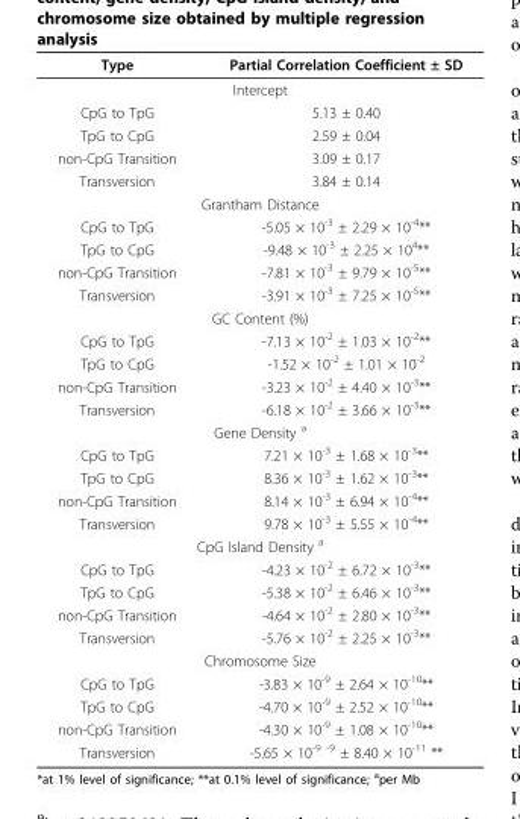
<table><thead><tr><td>Type</td><td>Partial Correlation Coefficient ± SD</td></tr></thead><tbody><tr><td colspan="2">Intercept</td></tr><tr><td>CpG to TpG</td><td>5.13 ± 0.40</td></tr><tr><td>TpG to CpG</td><td>2.59 ± 0.04</td></tr><tr><td>non-CpG Transition</td><td>3.09 ± 0.17</td></tr><tr><td>Transversion</td><td>3.84 ± 0.14</td></tr><tr><td colspan="2">Grantham Distance</td></tr><tr><td>CpG to TpG</td><td>-5.05 × 10<sup>-3</sup> ± 2.29 × 10<sup>-4</sup>**</td></tr><tr><td>TpG to CpG</td><td>-9.48 × 10<sup>-3</sup> ± 2.25 × 10<sup>4</sup>**</td></tr><tr><td>non-CpG Transition</td><td>-7.81 × 10<sup>-3</sup> ± 9.79 × 10<sup>-5</sup>**</td></tr><tr><td>Transversion</td><td>-3.91 × 10<sup>-3</sup> ± 7.25 × 10<sup>-5</sup>**</td></tr><tr><td colspan="2">GC Content (%)</td></tr><tr><td>CpG to TpG</td><td>-7.13 × 10<sup>-2</sup> ± 1.03 × 10<sup>-2</sup>**</td></tr><tr><td>TpG to CpG</td><td>-1.52 × 10<sup>-2</sup> ± 1.01 × 10<sup>-2</sup></td></tr><tr><td>non-CpG Transition</td><td>-3.23 × 10<sup>-2</sup> ± 4.40 × 10<sup>-3</sup>**</td></tr><tr><td>Transversion</td><td>-6.18 × 10<sup>-2</sup> ± 3.66 × 10<sup>-3</sup>**</td></tr><tr><td colspan="2">Gene Density <sup>a</sup></td></tr><tr><td>CpG to TpG</td><td>7.21 × 10<sup>-3</sup> ± 1.68 × 10<sup>-3</sup>**</td></tr><tr><td>TpG to CpG</td><td>8.36 × 10<sup>-3</sup> ± 1.62 × 10<sup>-3</sup>**</td></tr><tr><td>non-CpG Transition</td><td>8.14 × 10<sup>-3</sup> ± 6.94 × 10<sup>-4</sup>**</td></tr><tr><td>Transversion</td><td>9.78 × 10<sup>-3</sup> ± 5.55 × 10<sup>-4</sup>**</td></tr><tr><td colspan="2">CpG Island Density <sup>a</sup></td></tr><tr><td>CpG to TpG</td><td>-4.23 × 10<sup>-2</sup> ± 6.72 × 10<sup>-3</sup>**</td></tr><tr><td>TpG to CpG</td><td>-5.38 × 10<sup>-2</sup> ± 6.46 × 10<sup>-3</sup>**</td></tr><tr><td>non-CpG Transition</td><td>-4.64 × 10<sup>-2</sup> ± 2.80 × 10<sup>-3</sup>**</td></tr><tr><td>Transversion</td><td>-5.76 × 10<sup>-2</sup> ± 2.25 × 10<sup>-3</sup>**</td></tr><tr><td colspan="2">Chromosome Size</td></tr><tr><td>CpG to TpG</td><td>-3.83 × 10<sup>-9</sup> ± 2.64 × 10<sup>-10</sup>**</td></tr><tr><td>TpG to CpG</td><td>-4.70 × 10<sup>-9</sup> ± 2.52 × 10<sup>-10</sup>**</td></tr><tr><td>non-CpG Transition</td><td>-4.30 × 10<sup>-9</sup> ± 1.08 × 10<sup>-10</sup>**</td></tr><tr><td>Transversion</td><td>-5.65 × 10<sup>-9 -9</sup> ± 8.40 × 10<sup>-11</sup> **</td></tr></tbody></table>